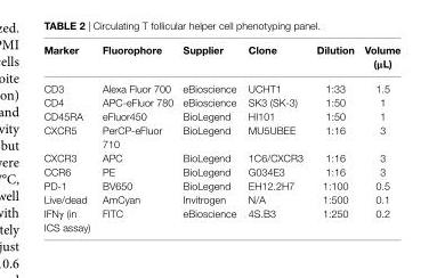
<table><thead><tr><td>Marker</td><td>Fluorophore</td><td>supplier</td><td>clone</td><td>Dilution</td><td>Volume (μl)</td></tr></thead><tbody><tr><td>CD3</td><td>Alexa Fluor 700</td><td>eBioscience</td><td>UCHT1</td><td>1:33</td><td>1.5</td></tr><tr><td>CD4</td><td>APC-eFluor 780</td><td>eBioscience</td><td>SK3 (SK-3)</td><td>1:50</td><td>1</td></tr><tr><td>CD45RA</td><td>eFluor450</td><td>BioLegend</td><td>HI101</td><td>1:50</td><td>1</td></tr><tr><td>CXCR5</td><td>PerCP-eFluor 710</td><td>BioLegend</td><td>MU5UBEE</td><td>1:16</td><td>3</td></tr><tr><td>CXCR3</td><td>APC</td><td>BioLegend</td><td>1C6/CXCR3</td><td>1:16</td><td>3</td></tr><tr><td>CCR6</td><td>PE</td><td>BioLegend</td><td>G034E3</td><td>1:16</td><td>3</td></tr><tr><td>PD-1</td><td>BV650</td><td>BioLegend</td><td>EH12.2H7</td><td>1:100</td><td>0.5</td></tr><tr><td>Live/dead</td><td>AmCyan</td><td>Invitrogen</td><td>N/A</td><td>1:500</td><td>0.1</td></tr><tr><td>IFNγ (in ICS assay)</td><td>FITC</td><td>eBioscience</td><td>4S.B3</td><td>1:250</td><td>0.2</td></tr></tbody></table>